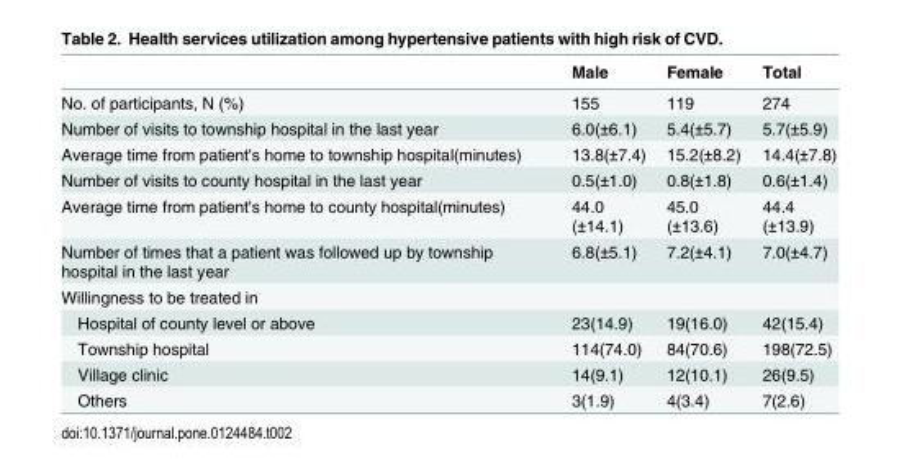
<table><thead><tr><td></td><td>Male</td><td>Female</td><td>Total</td></tr></thead><tbody><tr><td>No. of participants, N (%)</td><td>155</td><td>119</td><td>274</td></tr><tr><td>Number of visits to township hospital in the last year</td><td>6.0(±6.1)</td><td>5.4(±5.7)</td><td>5.7(±5.9)</td></tr><tr><td>Average time from patient&#x27;s home to township hospital(minutes)</td><td>13.8(±7.4)</td><td>15.2(±8.2)</td><td>14.4(±7.8)</td></tr><tr><td>Number of visits to county hospital in the last year</td><td>0.5(±1.0)</td><td>0.8(±1.8)</td><td>0.6(±1.4)</td></tr><tr><td>Average time from patient&#x27;s home to county hospital(minutes)</td><td>44.0 (±14.1)</td><td>45.0 (±13.6)</td><td>44.4 (±13.9)</td></tr><tr><td>Number of times that a patient was followed up by township hospital in the last year</td><td>6.8(±5.1)</td><td>7.2(±4.1)</td><td>7.0(±4.7)</td></tr><tr><td colspan="4">Willingness to be treated in</td></tr><tr><td>Hospital of county level or above</td><td>23(14.9)</td><td>19(16.0)</td><td>42(15.4)</td></tr><tr><td>Township hospital</td><td>114(74.0)</td><td>84(70.6)</td><td>198(72.5)</td></tr><tr><td>Village clinic</td><td>14(9.1)</td><td>12(10.1)</td><td>26(9.5)</td></tr><tr><td>Others</td><td>3(1.9)</td><td>4(3.4)</td><td>7(2.6)</td></tr></tbody></table>